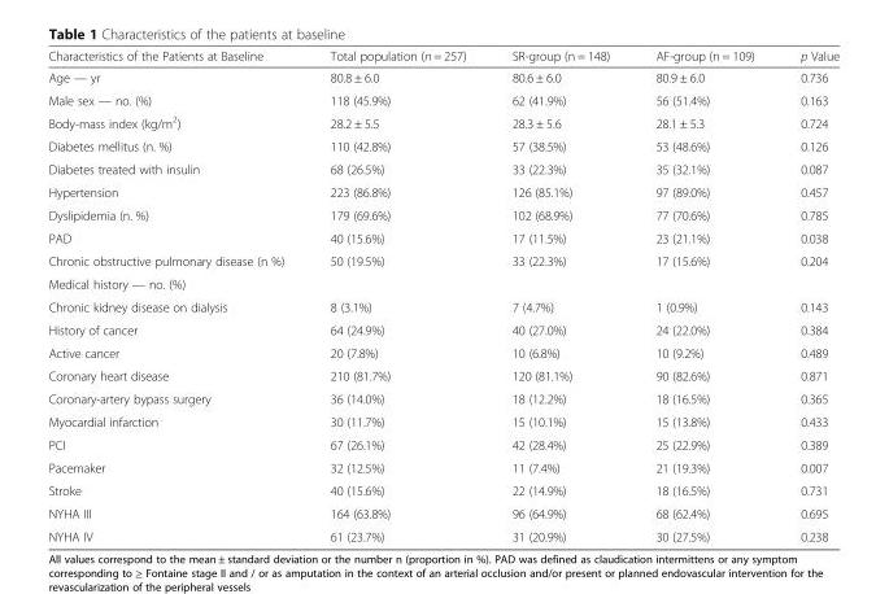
<table><thead><tr><td>Characteristics of the Patients at Baseline</td><td>Total population (n = 257)</td><td>SR-group (n = 148)</td><td>AF-group (n = 109)</td><td>p Value</td></tr></thead><tbody><tr><td>Age — yr</td><td>80.8 ± 6.0</td><td>80.6 ± 6.0</td><td>80.9 ± 6.0</td><td>0.736</td></tr><tr><td>Male sex — no. (%)</td><td>118 (45.9%)</td><td>62 (41.9%)</td><td>56 (51.4%)</td><td>0.163</td></tr><tr><td>Body-mass index (kg/m<sup>2</sup>)</td><td>28.2 ± 5.5</td><td>28.3 ± 5.6</td><td>28.1 ± 5.3</td><td>0.724</td></tr><tr><td>Diabetes mellitus (n. %)</td><td>110 (42.8%)</td><td>57 (38.5%)</td><td>53 (48.6%)</td><td>0.126</td></tr><tr><td>Diabetes treated with insulin</td><td>68 (26.5%)</td><td>33 (22.3%)</td><td>35 (32.1%)</td><td>0.087</td></tr><tr><td>Hypertension</td><td>223 (86.8%)</td><td>126 (85.1%)</td><td>97 (89.0%)</td><td>0.457</td></tr><tr><td>Dyslipidemia (n. %)</td><td>179 (69.6%)</td><td>102 (68.9%)</td><td>77 (70.6%)</td><td>0.785</td></tr><tr><td>PAD</td><td>40 (15.6%)</td><td>17 (11.5%)</td><td>23 (21.1%)</td><td>0.038</td></tr><tr><td>Chronic obstructive pulmonary disease (n %)</td><td>50 (19.5%)</td><td>33 (22.3%)</td><td>17 (15.6%)</td><td>0.204</td></tr><tr><td colspan="5">Medical history — no. (%)</td></tr><tr><td>Chronic kidney disease on dialysis</td><td>8 (3.1%)</td><td>7 (4.7%)</td><td>1 (0.9%)</td><td>0.143</td></tr><tr><td>History of cancer</td><td>64 (24.9%)</td><td>40 (27.0%)</td><td>24 (22.0%)</td><td>0.384</td></tr><tr><td>Active cancer</td><td>20 (7.8%)</td><td>10 (6.8%)</td><td>10 (9.2%)</td><td>0.489</td></tr><tr><td>Coronary heart disease</td><td>210 (81.7%)</td><td>120 (81.1%)</td><td>90 (82.6%)</td><td>0.871</td></tr><tr><td>Coronary-artery bypass surgery</td><td>36 (14.0%)</td><td>18 (12.2%)</td><td>18 (16.5%)</td><td>0.365</td></tr><tr><td>Myocardial infarction</td><td>30 (11.7%)</td><td>15 (10.1%)</td><td>15 (13.8%)</td><td>0.433</td></tr><tr><td>PCI</td><td>67 (26.1%)</td><td>42 (28.4%)</td><td>25 (22.9%)</td><td>0.389</td></tr><tr><td>Pacemaker</td><td>32 (12.5%)</td><td>11 (7.4%)</td><td>21 (19.3%)</td><td>0.007</td></tr><tr><td>Stroke</td><td>40 (15.6%)</td><td>22 (14.9%)</td><td>18 (16.5%)</td><td>0.731</td></tr><tr><td>NYHA III</td><td>164 (63.8%)</td><td>96 (64.9%)</td><td>68 (62.4%)</td><td>0.695</td></tr><tr><td>NYHA IV</td><td>61 (23.7%)</td><td>31 (20.9%)</td><td>30 (27.5%)</td><td>0.238</td></tr></tbody></table>